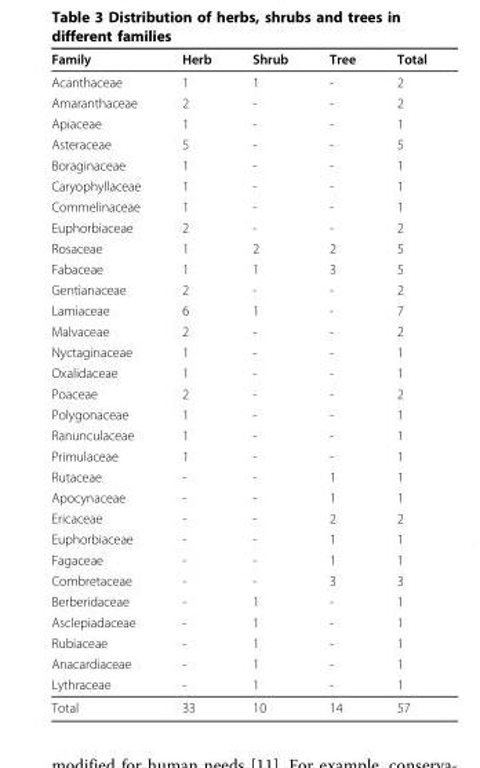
<table><thead><tr><td>Family</td><td>Herb</td><td>Shrub</td><td>Tree</td><td>Total</td></tr></thead><tbody><tr><td>Acanthaceae</td><td>1</td><td>1</td><td>-</td><td>2</td></tr><tr><td>Amaranthaceae</td><td>2</td><td>-</td><td>-</td><td>2</td></tr><tr><td>Apiaceae</td><td>1</td><td>-</td><td>-</td><td>1</td></tr><tr><td>Asteraceae</td><td>5</td><td>-</td><td>-</td><td>5</td></tr><tr><td>Boraginaceae</td><td>1</td><td>-</td><td>-</td><td>1</td></tr><tr><td>Caryophyllaceae</td><td>1</td><td>-</td><td>-</td><td>1</td></tr><tr><td>Commelinaceae</td><td>1</td><td>-</td><td>-</td><td>1</td></tr><tr><td>Euphorbiaceae</td><td>2</td><td>-</td><td>-</td><td>2</td></tr><tr><td>Rosaceae</td><td>1</td><td>2</td><td>2</td><td>5</td></tr><tr><td>Fabaceae</td><td>1</td><td>1</td><td>3</td><td>5</td></tr><tr><td>Gentianaceae</td><td>2</td><td>-</td><td>-</td><td>2</td></tr><tr><td>Lamiaceae</td><td>6</td><td>1</td><td>-</td><td>7</td></tr><tr><td>Malvaceae</td><td>2</td><td>-</td><td>-</td><td>2</td></tr><tr><td>Nyctaginaceae</td><td>1</td><td>-</td><td>-</td><td>1</td></tr><tr><td>Oxalidaceae</td><td>1</td><td>-</td><td>-</td><td>1</td></tr><tr><td>Poaceae</td><td>2</td><td>-</td><td>-</td><td>2</td></tr><tr><td>Polygonaceae</td><td>1</td><td>-</td><td>-</td><td>1</td></tr><tr><td>Ranunculaceae</td><td>1</td><td>-</td><td>-</td><td>1</td></tr><tr><td>Primulaceae</td><td>1</td><td>-</td><td>-</td><td>1</td></tr><tr><td>Rutaceae</td><td>-</td><td>-</td><td>1</td><td>1</td></tr><tr><td>Apocynaceae</td><td>-</td><td>-</td><td>1</td><td>1</td></tr><tr><td>Ericaceae</td><td>-</td><td>-</td><td>2</td><td>2</td></tr><tr><td>Euphorbiaceae</td><td>-</td><td>-</td><td>1</td><td>1</td></tr><tr><td>Fagaceae</td><td>-</td><td>-</td><td>1</td><td>1</td></tr><tr><td>Combretaceae</td><td>-</td><td>-</td><td>3</td><td>3</td></tr><tr><td>Berberidaceae</td><td>-</td><td>1</td><td>-</td><td>1</td></tr><tr><td>Asclepiadaceae</td><td>-</td><td>1</td><td>-</td><td>1</td></tr><tr><td>Rubiaceae</td><td>-</td><td>1</td><td>-</td><td>1</td></tr><tr><td>Anacardiaceae</td><td>-</td><td>1</td><td>-</td><td>1</td></tr><tr><td>Lythraceae</td><td>-</td><td>1</td><td>-</td><td>1</td></tr><tr><td>Total</td><td>33</td><td>10</td><td>14</td><td>57</td></tr></tbody></table>